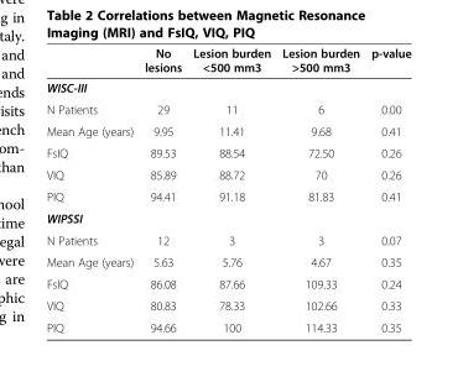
<table><thead><tr><td></td><td>No lesions</td><td>Lesion burden &lt;500 mm3</td><td>Lesion burden &gt;500 mm3</td><td>p-value</td></tr></thead><tbody><tr><td colspan="5">WISC-III</td></tr><tr><td>N Patients</td><td>29</td><td>11</td><td>6</td><td>0.00</td></tr><tr><td>Mean Age (years)</td><td>9.95</td><td>11.41</td><td>9.68</td><td>0.41</td></tr><tr><td>FsIQ</td><td>89.53</td><td>88.54</td><td>72.50</td><td>0.26</td></tr><tr><td>VIQ</td><td>85.89</td><td>88.72</td><td>70</td><td>0.26</td></tr><tr><td>PIQ</td><td>94.41</td><td>91.18</td><td>81.83</td><td>0.41</td></tr><tr><td colspan="5">WIPSSI</td></tr><tr><td>N Patients</td><td>12</td><td>3</td><td>3</td><td>0.07</td></tr><tr><td>Mean Age (years)</td><td>5.63</td><td>5.76</td><td>4.67</td><td>0.35</td></tr><tr><td>FsIQ</td><td>86.08</td><td>87.66</td><td>109.33</td><td>0.24</td></tr><tr><td>VIQ</td><td>80.83</td><td>78.33</td><td>102.66</td><td>0.33</td></tr><tr><td>PIQ</td><td>94.66</td><td>100</td><td>114.33</td><td>0.35</td></tr></tbody></table>